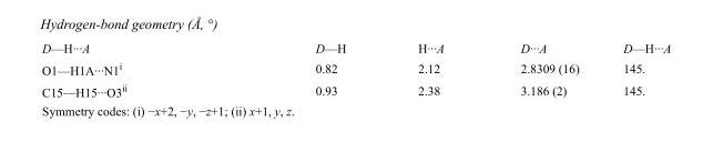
<table><tbody><tr><td>D—H···A</td><td>D—H</td><td>H···A</td><td>D···A</td><td>D—H···A</td></tr><tr><td>O1—H1A···N1<sup>i</sup></td><td>0.82</td><td>2.12</td><td>2.8309 (16)</td><td>145.</td></tr><tr><td>C15—H15···O3<sup>ii</sup></td><td>0.93</td><td>2.38</td><td>3.186 (2)</td><td>145.</td></tr></tbody></table>